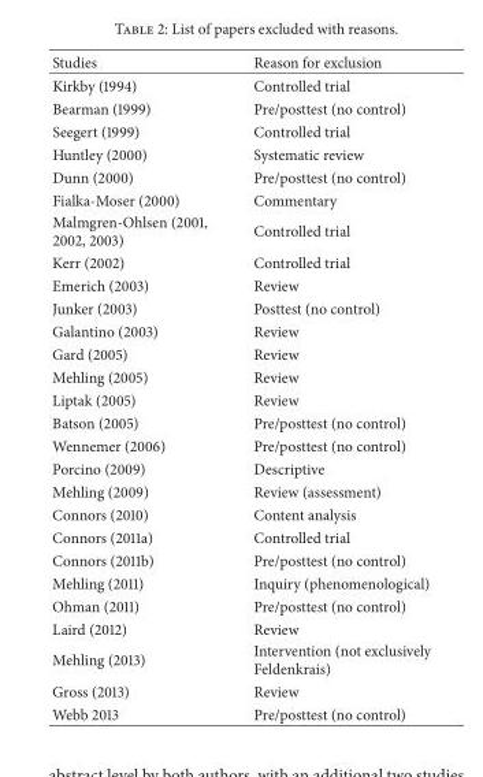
<table><thead><tr><td>Studies</td><td>Reason for exclusion</td></tr></thead><tbody><tr><td>Kirkby (1994)</td><td>Controlled trial</td></tr><tr><td>Bearman (1999)</td><td>Pre/posttest (no control)</td></tr><tr><td>Seegert (1999)</td><td>Controlled trial</td></tr><tr><td>Huntley (2000)</td><td>Systematic review</td></tr><tr><td>Dunn (2000)</td><td>Pre/posttest (no control)</td></tr><tr><td>Fialka-Moser (2000)</td><td>Commentary</td></tr><tr><td>Malmgren-Ohlsen (2001, 2002, 2003)</td><td>Controlled trial</td></tr><tr><td>Kerr (2002)</td><td>Controlled trial</td></tr><tr><td>Emerich (2003)</td><td>Review</td></tr><tr><td>Junker (2003)</td><td>Posttest (no control)</td></tr><tr><td>Galantino (2003)</td><td>Review</td></tr><tr><td>Gard (2005)</td><td>Review</td></tr><tr><td>Mehling (2005)</td><td>Review</td></tr><tr><td>Liptak (2005)</td><td>Review</td></tr><tr><td>Batson (2005)</td><td>Pre/posttest (no control)</td></tr><tr><td>Wennemer (2006)</td><td>Pre/posttest (no control)</td></tr><tr><td>Porcino (2009)</td><td>Descriptive</td></tr><tr><td>Mehling (2009)</td><td>Review (assessment)</td></tr><tr><td>Connors (2010)</td><td>Content analysis</td></tr><tr><td>Connors (2011a)</td><td>Controlled trial</td></tr><tr><td>Connors (2011b)</td><td>Pre/posttest (no control)</td></tr><tr><td>Mehling (2011)</td><td>Inquiry (phenomenological)</td></tr><tr><td>Ohman (2011)</td><td>Pre/posttest (no control)</td></tr><tr><td>Laird (2012)</td><td>Review</td></tr><tr><td>Mehling (2013)</td><td>Intervention (not exclusively Feldenkrais)</td></tr><tr><td>Gross (2013)</td><td>Review</td></tr><tr><td>Webb 2013</td><td>Pre/posttest (no control)</td></tr></tbody></table>